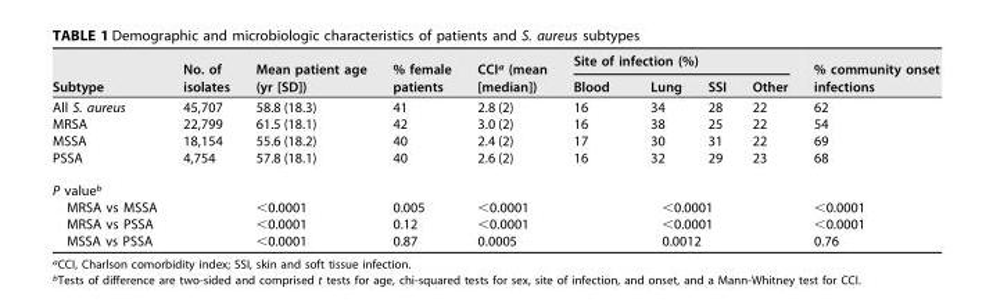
<table><thead><tr><td rowspan="2">Subtype</td><td rowspan="2">No. of isolates</td><td rowspan="2">Mean patient age (yr [SD])</td><td rowspan="2">% female patients</td><td rowspan="2">CCI<sup>a</sup> (mean [median])</td><td colspan="4">Site of infection (%)</td><td rowspan="2">% community onset infections</td></tr><tr><td>Blood</td><td>Lung</td><td>SSI</td><td>Other</td></tr></thead><tbody><tr><td>All S. aureus</td><td>45,707</td><td>58.8 (18.3)</td><td>41</td><td>2.8 (2)</td><td>16</td><td>34</td><td>28</td><td>22</td><td>62</td></tr><tr><td>MRSA</td><td>22,799</td><td>61.5 (18.1)</td><td>42</td><td>3.0 (2)</td><td>16</td><td>38</td><td>25</td><td>22</td><td>54</td></tr><tr><td>MSSA</td><td>18,154</td><td>55.6 (18.2)</td><td>40</td><td>2.4 (2)</td><td>17</td><td>30</td><td>31</td><td>22</td><td>69</td></tr><tr><td>PSSA</td><td>4,754</td><td>57.8 (18.1)</td><td>40</td><td>2.6 (2)</td><td>16</td><td>32</td><td>29</td><td>23</td><td>68</td></tr><tr><td colspan="10">P value<sup>b</sup></td></tr><tr><td>MRSA vs MSSA</td><td></td><td>&lt;0.0001</td><td>0.005</td><td>&lt;0.0001</td><td colspan="4">&lt;0.0001</td><td>&lt;0.0001</td></tr><tr><td>MRSA vs PSSA</td><td></td><td>&lt;0.0001</td><td>0.12</td><td>&lt;0.0001</td><td colspan="4">&lt;0.0001</td><td>&lt;0.0001</td></tr><tr><td>MSSA vs PSSA</td><td></td><td>&lt;0.0001</td><td>0.87</td><td>0.0005</td><td colspan="4">0.0012</td><td>0.76</td></tr></tbody></table>